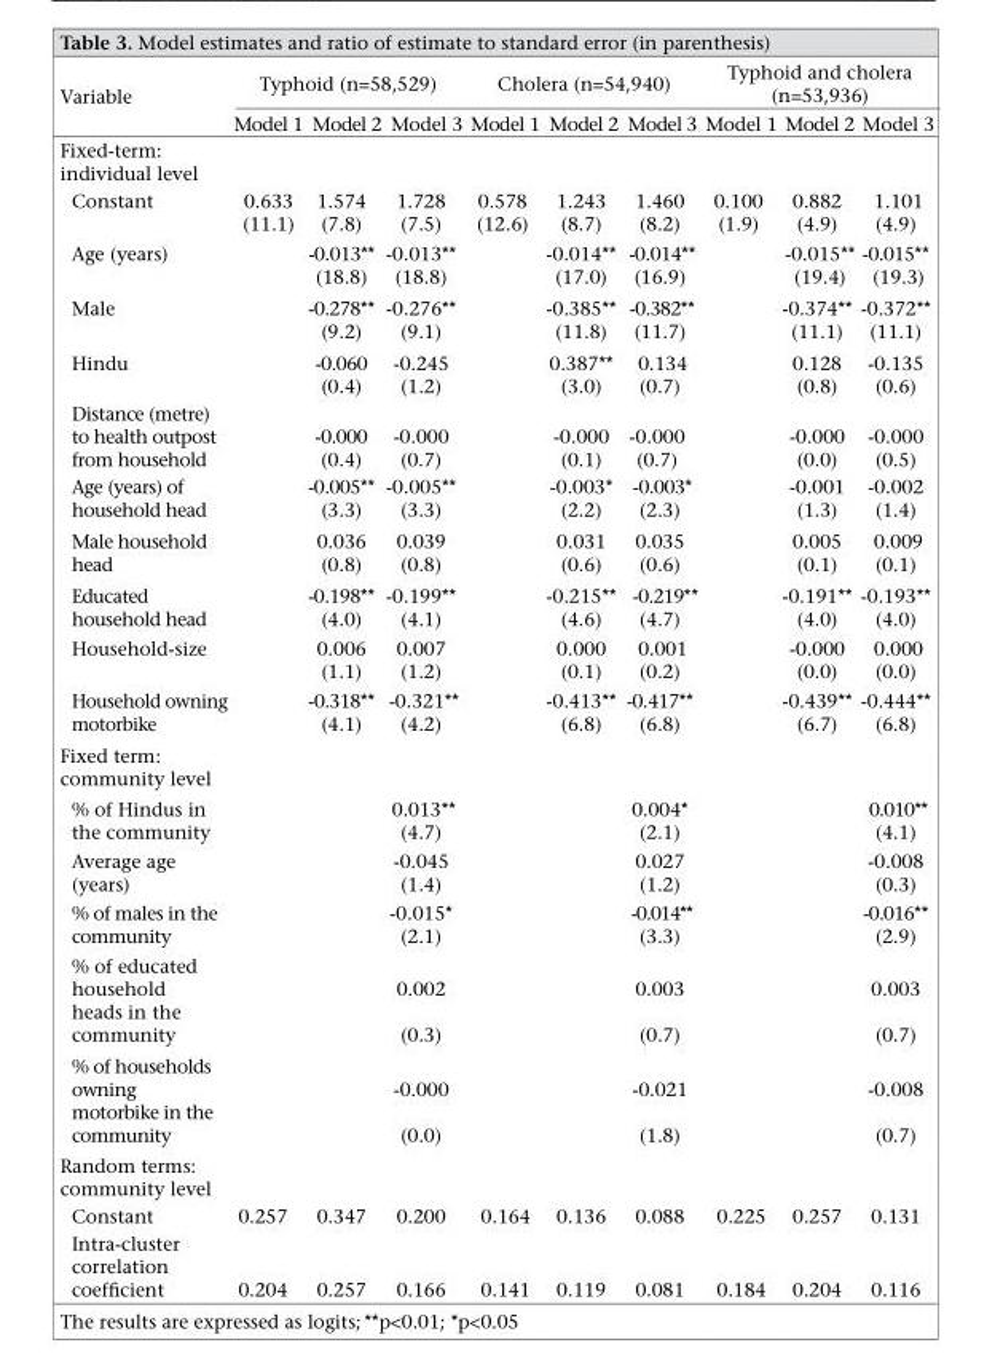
<table><thead><tr><td rowspan="2">Variable</td><td colspan="3">Typhoid (n=58,529)</td><td colspan="3">Cholera (n=54,940)</td><td colspan="3">Typhoid and cholera (n=53,936)</td></tr><tr><td>Model 1</td><td>Model 2</td><td>Model 3</td><td>Model 1</td><td>Model 2</td><td>Model 3</td><td>Model 1</td><td>Model 2</td><td>Model 3</td></tr></thead><tbody><tr><td colspan="10">Fixed-term: individual level</td></tr><tr><td>Constant</td><td>0.633 (11.1)</td><td>1.574 (7.8)</td><td>1.728 (7.5)</td><td>0.578 (12.6)</td><td>1.243 (8.7)</td><td>1.460 (8.2)</td><td>0.100 (1.9)</td><td>0.882 (4.9)</td><td>1.101 (4.9)</td></tr><tr><td>Age (years)</td><td></td><td>-0.013** (18.8)</td><td>-0.013** (18.8)</td><td></td><td>-0.014** (17.0)</td><td>-0.014** (16.9)</td><td></td><td>-0.015** (19.4)</td><td>-0.015** (19.3)</td></tr><tr><td>Male</td><td></td><td>-0.278** (9.2)</td><td>-0.276** (9.1)</td><td></td><td>-0.385** (11.8)</td><td>-0.382** (11.7)</td><td></td><td>-0.374** (11.1)</td><td>-0.372** (11.1)</td></tr><tr><td>Hindu</td><td></td><td>-0.060 (0.4)</td><td>-0.245 (1.2)</td><td></td><td>0.387** (3.0)</td><td>0.134 (0.7)</td><td></td><td>0.128 (0.8)</td><td>-0.135 (0.6)</td></tr><tr><td>Distance (metre) to health outpost from household</td><td></td><td>-0.000 (0.4)</td><td>-0.000 (0.7)</td><td></td><td>-0.000 (0.1)</td><td>-0.000 (0.7)</td><td></td><td>-0.000 (0.0)</td><td>-0.000 (0.5)</td></tr><tr><td>Age (years) of household head</td><td></td><td>-0.005** (3.3)</td><td>-0.005** (3.3)</td><td></td><td>-0.003* (2.2)</td><td>-0.003* (2.3)</td><td></td><td>-0.001 (1.3)</td><td>-0.002 (1.4)</td></tr><tr><td>Male household head</td><td></td><td>0.036 (0.8)</td><td>0.039 (0.8)</td><td></td><td>0.031 (0.6)</td><td>0.035 (0.6)</td><td></td><td>0.005 (0.1)</td><td>0.009 (0.1)</td></tr><tr><td>Educated household head</td><td></td><td>-0.198** (4.0)</td><td>-0.199** (4.1)</td><td></td><td>-0.215** (4.6)</td><td>-0.219** (4.7)</td><td></td><td>-0.191** (4.0)</td><td>-0.193** (4.0)</td></tr><tr><td>Household-size</td><td></td><td>0.006 (1.1)</td><td>0.007 (1.2)</td><td></td><td>0.000 (0.1)</td><td>0.001 (0.2)</td><td></td><td>-0.000 (0.0)</td><td>0.000 (0.0)</td></tr><tr><td>Household owning motorbike</td><td></td><td>-0.318** (4.1)</td><td>-0.321** (4.2)</td><td></td><td>-0.413** (6.8)</td><td>-0.417** (6.8)</td><td></td><td>-0.439** (6.7)</td><td>-0.444** (6.8)</td></tr><tr><td colspan="10">Fixed term: community level</td></tr><tr><td>% of Hindus in the community</td><td></td><td></td><td>0.013** (4.7)</td><td></td><td></td><td>0.004* (2.1)</td><td></td><td></td><td>0.010** (4.1)</td></tr><tr><td>Average age (years)</td><td></td><td></td><td>-0.045 (1.4)</td><td></td><td></td><td>0.027 (1.2)</td><td></td><td></td><td>-0.008 (0.3)</td></tr><tr><td>% of males in the community</td><td></td><td></td><td>-0.015* (2.1)</td><td></td><td></td><td>-0.014** (3.3)</td><td></td><td></td><td>-0.016** (2.9)</td></tr><tr><td>% of educated household heads in the community</td><td></td><td></td><td>0.002 (0.3)</td><td></td><td></td><td>0.003 (0.7)</td><td></td><td></td><td>0.003 (0.7)</td></tr><tr><td>% of households owning motorbike in the community</td><td></td><td></td><td>-0.000 (0.0)</td><td></td><td></td><td>-0.021 (1.8)</td><td></td><td></td><td>-0.008 (0.7)</td></tr><tr><td colspan="10">Random terms: community level</td></tr><tr><td>Constant</td><td>0.257</td><td>0.347</td><td>0.200</td><td>0.164</td><td>0.136</td><td>0.088</td><td>0.225</td><td>0.257</td><td>0.131</td></tr><tr><td>Intra-cluster correlation coefficient</td><td>0.204</td><td>0.257</td><td>0.166</td><td>0.141</td><td>0.119</td><td>0.081</td><td>0.184</td><td>0.204</td><td>0.116</td></tr></tbody></table>